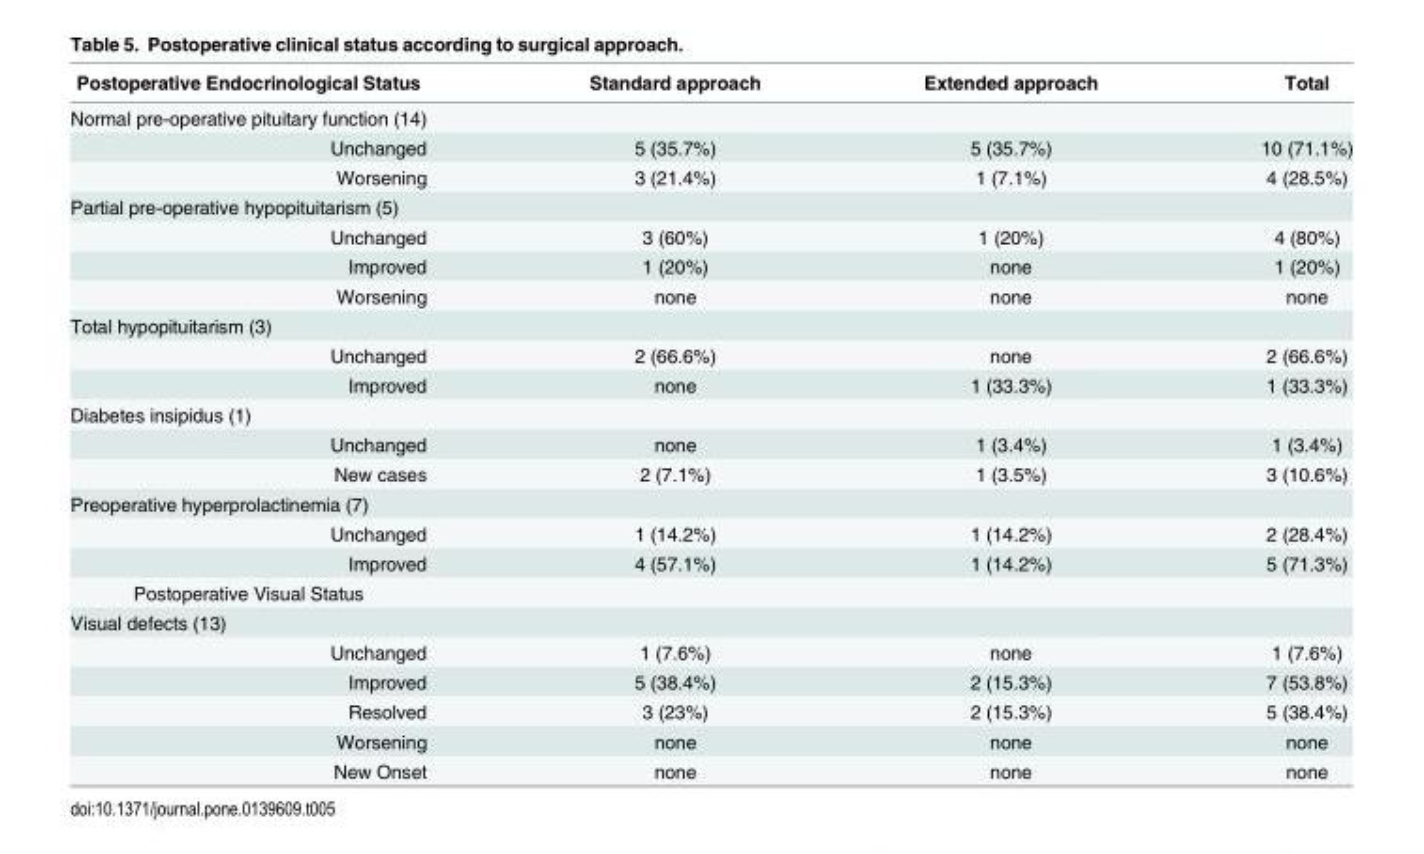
<table><thead><tr><td>Postoperative Endocrinological Status</td><td>Standard approach</td><td>Extended approach</td><td>Total</td></tr></thead><tbody><tr><td colspan="4">Normal pre-operative pituitary function (14)</td></tr><tr><td>Unchanged</td><td>5 (35.7%)</td><td>5 (35.7%)</td><td>10 (71.1%)</td></tr><tr><td>Worsening</td><td>3 (21.4%)</td><td>1 (7.1%)</td><td>4 (28.5%)</td></tr><tr><td colspan="4">Partial pre-operative hypopituitarism (5)</td></tr><tr><td>Unchanged</td><td>3 (60%)</td><td>1 (20%)</td><td>4 (80%)</td></tr><tr><td>Improved</td><td>1 (20%)</td><td>none</td><td>1 (20%)</td></tr><tr><td>Worsening</td><td>none</td><td>none</td><td>none</td></tr><tr><td colspan="4">Total hypopituitarism (3)</td></tr><tr><td>Unchanged</td><td>2 (66.6%)</td><td>none</td><td>2 (66.6%)</td></tr><tr><td>Improved</td><td>none</td><td>1 (33.3%)</td><td>1 (33.3%)</td></tr><tr><td colspan="4">Diabetes insipidus (1)</td></tr><tr><td>Unchanged</td><td>none</td><td>1 (3.4%)</td><td>1 (3.4%)</td></tr><tr><td>New cases</td><td>2 (7.1%)</td><td>1 (3.5%)</td><td>3 (10.6%)</td></tr><tr><td colspan="4">Preoperative hyperprolactinemia (7)</td></tr><tr><td>Unchanged</td><td>1 (14.2%)</td><td>1 (14.2%)</td><td>2 (28.4%)</td></tr><tr><td>Improved</td><td>4 (57.1%)</td><td>1 (14.2%)</td><td>5 (71.3%)</td></tr><tr><td colspan="4">Postoperative Visual Status</td></tr><tr><td colspan="4">Visual defects (13)</td></tr><tr><td>Unchanged</td><td>1 (7.6%)</td><td>none</td><td>1 (7.6%)</td></tr><tr><td>Improved</td><td>5 (38.4%)</td><td>2 (15.3%)</td><td>7 (53.8%)</td></tr><tr><td>Resolved</td><td>3 (23%)</td><td>2 (15.3%)</td><td>5 (38.4%)</td></tr><tr><td>Worsening</td><td>none</td><td>none</td><td>none</td></tr><tr><td>New Onset</td><td>none</td><td>none</td><td>none</td></tr></tbody></table>